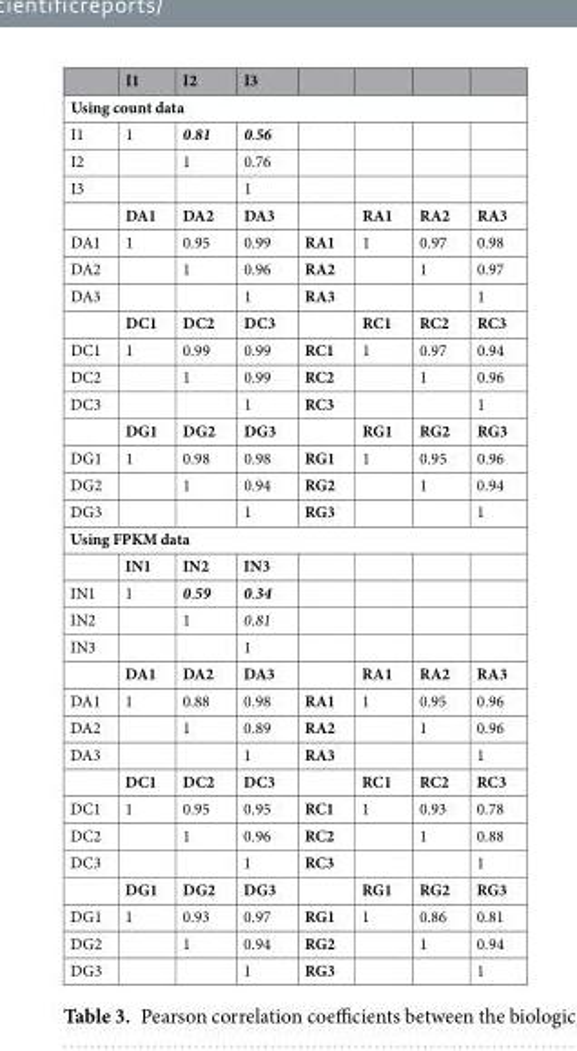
<table><thead><tr><td></td><td>I1</td><td>I2</td><td>I3</td><td></td><td></td><td></td><td></td></tr></thead><tbody><tr><td colspan="8">Using count data</td></tr><tr><td>I1</td><td>1</td><td>0.81</td><td>0.56</td><td></td><td></td><td></td><td></td></tr><tr><td>I2</td><td></td><td>1</td><td>0.76</td><td></td><td></td><td></td><td></td></tr><tr><td rowspan="2">I3</td><td></td><td></td><td>1</td><td></td><td></td><td></td><td></td></tr><tr><td>DA1</td><td>DA2</td><td>DA3</td><td></td><td>RA1</td><td>RA2</td><td>RA3</td></tr><tr><td>DA1</td><td>1</td><td>0.95</td><td>0.99</td><td>RA1</td><td>1</td><td>0.97</td><td>0.98</td></tr><tr><td>DA2</td><td></td><td>1</td><td>0.96</td><td>RA2</td><td></td><td>1</td><td>0.97</td></tr><tr><td rowspan="2">DA3</td><td></td><td></td><td>1</td><td>RA3</td><td></td><td></td><td>1</td></tr><tr><td>DC1</td><td>DC2</td><td>DC3</td><td></td><td>RC1</td><td>RC2</td><td>RC3</td></tr><tr><td>DC1</td><td>1</td><td>0.99</td><td>0.99</td><td>RC1</td><td>1</td><td>0.97</td><td>0.94</td></tr><tr><td>DC2</td><td></td><td>1</td><td>0.99</td><td>RC2</td><td></td><td>1</td><td>0.96</td></tr><tr><td rowspan="2">DC3</td><td></td><td></td><td>1</td><td>RC3</td><td></td><td></td><td>1</td></tr><tr><td>DG1</td><td>DG2</td><td>DG3</td><td></td><td>RG1</td><td>RG2</td><td>RG3</td></tr><tr><td>DG1</td><td>1</td><td>0.98</td><td>0.98</td><td>RG1</td><td>1</td><td>0.95</td><td>0.96</td></tr><tr><td>DG2</td><td></td><td>1</td><td>0.94</td><td>RG2</td><td></td><td>1</td><td>0.94</td></tr><tr><td>DG3</td><td></td><td></td><td>1</td><td>RG3</td><td></td><td></td><td>1</td></tr><tr><td colspan="8">Using FPKM data</td></tr><tr><td></td><td>IN1</td><td>IN2</td><td>IN3</td><td></td><td></td><td></td><td></td></tr><tr><td>IN1</td><td>1</td><td>0.59</td><td>0.34</td><td></td><td></td><td></td><td></td></tr><tr><td>IN2</td><td></td><td>1</td><td>0.81</td><td></td><td></td><td></td><td></td></tr><tr><td rowspan="2">IN3</td><td></td><td></td><td>1</td><td></td><td></td><td></td><td></td></tr><tr><td>DA1</td><td>DA2</td><td>DA3</td><td></td><td>RA1</td><td>RA2</td><td>RA3</td></tr><tr><td>DA1</td><td>1</td><td>0.88</td><td>0.98</td><td>RA1</td><td>1</td><td>0.95</td><td>0.96</td></tr><tr><td>DA2</td><td></td><td>1</td><td>0.89</td><td>RA2</td><td></td><td>1</td><td>0.96</td></tr><tr><td rowspan="2">DA3</td><td></td><td></td><td>1</td><td>RA3</td><td></td><td></td><td>1</td></tr><tr><td>DC1</td><td>DC2</td><td>DC3</td><td></td><td>RC1</td><td>RC2</td><td>RC3</td></tr><tr><td>DC1</td><td>1</td><td>0.95</td><td>0.95</td><td>RC1</td><td>1</td><td>0.93</td><td>0.78</td></tr><tr><td>DC2</td><td></td><td>1</td><td>0.96</td><td>RC2</td><td></td><td>1</td><td>0.88</td></tr><tr><td rowspan="2">DC3</td><td></td><td></td><td>1</td><td>RC3</td><td></td><td></td><td>1</td></tr><tr><td>DG1</td><td>DG2</td><td>DG3</td><td></td><td>RG1</td><td>RG2</td><td>RG3</td></tr><tr><td>DG1</td><td>1</td><td>0.93</td><td>0.97</td><td>RG1</td><td>1</td><td>0.86</td><td>0.81</td></tr><tr><td>DG2</td><td></td><td>1</td><td>0.94</td><td>RG2</td><td></td><td>1</td><td>0.94</td></tr><tr><td>DG3</td><td></td><td></td><td>1</td><td>RG3</td><td></td><td></td><td>1</td></tr></tbody></table>